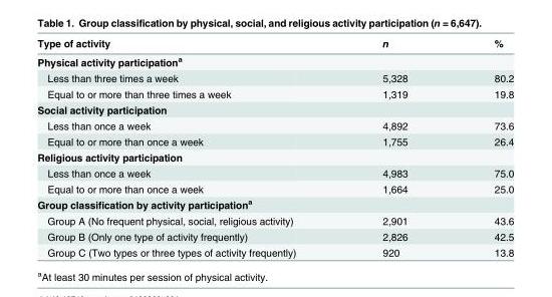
<table><thead><tr><td>Type of activity</td><td>n</td><td>%</td></tr></thead><tbody><tr><td colspan="3">Physical activity participation<sup>a</sup></td></tr><tr><td>Less than three times a week</td><td>5,328</td><td>80.2</td></tr><tr><td>Equal to or more than three times a week</td><td>1,319</td><td>19.8</td></tr><tr><td colspan="3">Social activity participation</td></tr><tr><td>Less than once a week</td><td>4,892</td><td>73.6</td></tr><tr><td>Equal to or more than once a week</td><td>1,755</td><td>26.4</td></tr><tr><td colspan="3">Religious activity participation</td></tr><tr><td>Less than once a week</td><td>4,983</td><td>75.0</td></tr><tr><td>Equal to or more than once a week</td><td>1,664</td><td>25.0</td></tr><tr><td colspan="3">Group classification by activity participation<sup>a</sup></td></tr><tr><td>Group A (No frequent physical, social, religious activity)</td><td>2,901</td><td>43.6</td></tr><tr><td>Group B (Only one type of activity frequently)</td><td>2,826</td><td>42.5</td></tr><tr><td>Group C (Two types or three types of activity frequently)</td><td>920</td><td>13.8</td></tr></tbody></table>